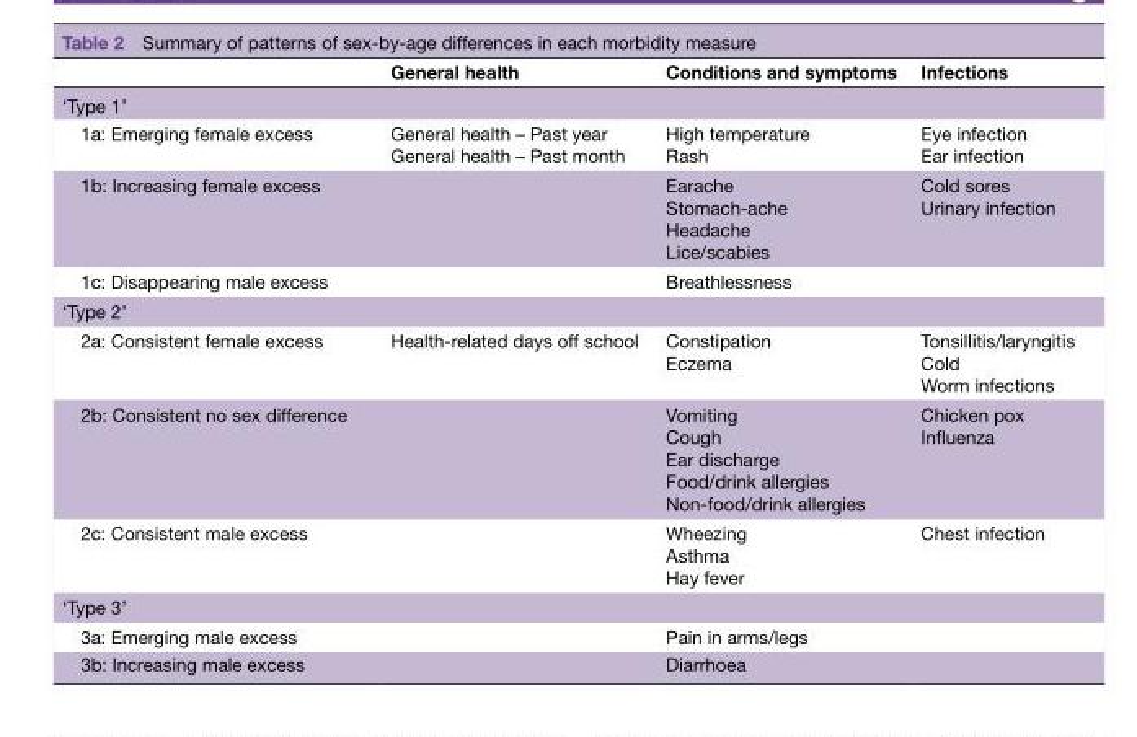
<table><thead><tr><td></td><td>General health</td><td>Conditions and symptoms</td><td>Infections</td></tr></thead><tbody><tr><td colspan="4">‘Type 1’</td></tr><tr><td>1a: Emerging female excess</td><td>General health – Past year General health – Past month</td><td>High temperature Rash</td><td>Eye infection Ear infection</td></tr><tr><td>1b: Increasing female excess</td><td></td><td>Earache Stomach-ache Headache Lice/scabies</td><td>Cold sores Urinary infection</td></tr><tr><td>1c: Disappearing male excess</td><td></td><td>Breathlessness</td><td></td></tr><tr><td colspan="4">‘Type 2’</td></tr><tr><td>2a: Consistent female excess</td><td>Health-related days off school</td><td>Constipation Eczema</td><td>Tonsillitis/laryngitis Cold Worm infections</td></tr><tr><td>2b: Consistent no sex difference</td><td></td><td>Vomiting Cough Ear discharge Food/drink allergies Non-food/drink allergies</td><td>Chicken pox Influenza</td></tr><tr><td>2c: Consistent male excess</td><td></td><td>Wheezing Asthma Hay fever</td><td>Chest infection</td></tr><tr><td colspan="4">‘Type 3’</td></tr><tr><td>3a: Emerging male excess</td><td></td><td>Pain in arms/legs</td><td></td></tr><tr><td>3b: Increasing male excess</td><td></td><td>Diarrhoea</td><td></td></tr></tbody></table>